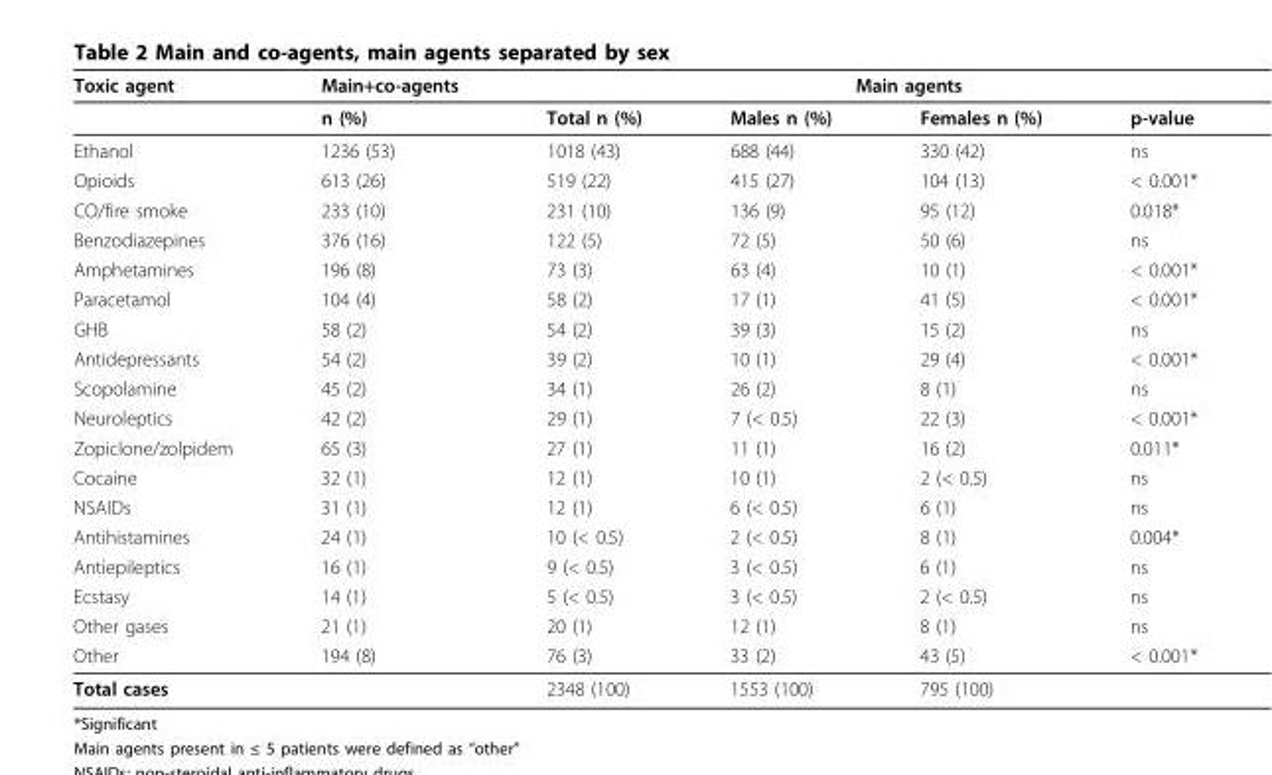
<table><thead><tr><td rowspan="2">Toxic agent</td><td rowspan="2">Main+co-agents n (%)</td><td colspan="4">Main agents</td></tr><tr><td>Total n (%)</td><td>Males n (%)</td><td>Females n (%)</td><td>p-value</td></tr></thead><tbody><tr><td>Ethanol</td><td>1236 (53)</td><td>1018 (43)</td><td>688 (44)</td><td>330 (42)</td><td>ns</td></tr><tr><td>Opioids</td><td>613 (26)</td><td>519 (22)</td><td>415 (27)</td><td>104 (13)</td><td>&lt; 0.001*</td></tr><tr><td>CO/fire smoke</td><td>233 (10)</td><td>231 (10)</td><td>136 (9)</td><td>95 (12)</td><td>0.018*</td></tr><tr><td>Benzodiazepines</td><td>376 (16)</td><td>122 (5)</td><td>72 (5)</td><td>50 (6)</td><td>ns</td></tr><tr><td>Amphetamines</td><td>196 (8)</td><td>73 (3)</td><td>63 (4)</td><td>10 (1)</td><td>&lt; 0.001*</td></tr><tr><td>Paracetamol</td><td>104 (4)</td><td>58 (2)</td><td>17 (1)</td><td>41 (5)</td><td>&lt; 0.001*</td></tr><tr><td>GHB</td><td>58 (2)</td><td>54 (2)</td><td>39 (3)</td><td>15 (2)</td><td>ns</td></tr><tr><td>Antidepressants</td><td>54 (2)</td><td>39 (2)</td><td>10 (1)</td><td>29 (4)</td><td>&lt; 0.001*</td></tr><tr><td>Scopolamine</td><td>45 (2)</td><td>34 (1)</td><td>26 (2)</td><td>8 (1)</td><td>ns</td></tr><tr><td>Neuroleptics</td><td>42 (2)</td><td>29 (1)</td><td>7 (&lt; 0.5)</td><td>22 (3)</td><td>&lt; 0.001*</td></tr><tr><td>Zopiclone/zolpidem</td><td>65 (3)</td><td>27 (1)</td><td>11 (1)</td><td>16 (2)</td><td>0.011*</td></tr><tr><td>Cocaine</td><td>32 (1)</td><td>12 (1)</td><td>10 (1)</td><td>2 (&lt; 0.5)</td><td>ns</td></tr><tr><td>NSAIDs</td><td>31 (1)</td><td>12 (1)</td><td>6 (&lt; 0.5)</td><td>6 (1)</td><td>ns</td></tr><tr><td>Antihistamines</td><td>24 (1)</td><td>10 (&lt; 0.5)</td><td>2 (&lt; 0.5)</td><td>8 (1)</td><td>0.004*</td></tr><tr><td>Antiepileptics</td><td>16 (1)</td><td>9 (&lt; 0.5)</td><td>3 (&lt; 0.5)</td><td>6 (1)</td><td>ns</td></tr><tr><td>Ecstasy</td><td>14 (1)</td><td>5 (&lt; 0.5)</td><td>3 (&lt; 0.5)</td><td>2 (&lt; 0.5)</td><td>ns</td></tr><tr><td>Other gases</td><td>21 (1)</td><td>20 (1)</td><td>12 (1)</td><td>8 (1)</td><td>ns</td></tr><tr><td>Other</td><td>194 (8)</td><td>76 (3)</td><td>33 (2)</td><td>43 (5)</td><td>&lt; 0.001*</td></tr><tr><td>Total cases</td><td></td><td>2348 (100)</td><td>1553 (100)</td><td>795 (100)</td><td></td></tr></tbody></table>